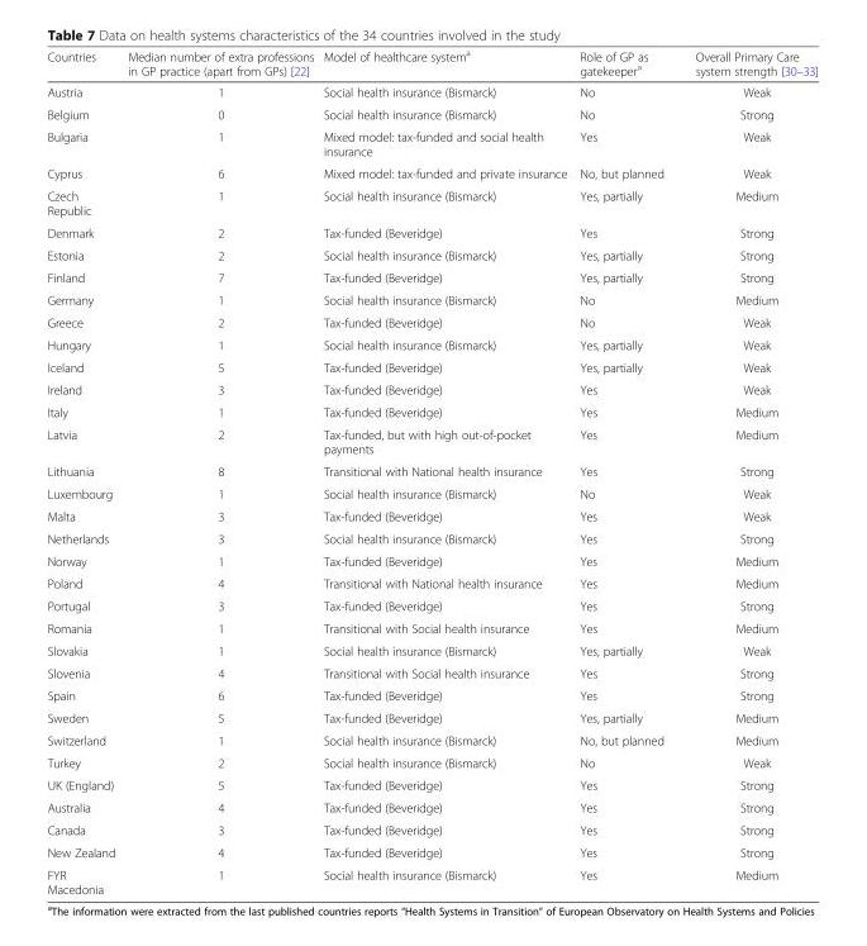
<table><thead><tr><td>Countries</td><td>Median number of extra professions in GP practice (apart from GPs) [22]</td><td>Model of healthcare system<sup>a</sup></td><td>Role of GP as gatekeeper<sup>a</sup></td><td>Overall Primary Care system strength [30–33]</td></tr></thead><tbody><tr><td>Austria</td><td>1</td><td>Social health insurance (Bismarck)</td><td>No</td><td>Weak</td></tr><tr><td>Belgium</td><td>0</td><td>Social health insurance (Bismarck)</td><td>No</td><td>Strong</td></tr><tr><td>Bulgaria</td><td>1</td><td>Mixed model: tax-funded and social health insurance</td><td>Yes</td><td>Weak</td></tr><tr><td>Cyprus</td><td>6</td><td>Mixed model: tax-funded and private insurance</td><td>No, but planned</td><td>Weak</td></tr><tr><td>Czech Republic</td><td>1</td><td>Social health insurance (Bismarck)</td><td>Yes, partially</td><td>Medium</td></tr><tr><td>Denmark</td><td>2</td><td>Tax-funded (Beveridge)</td><td>Yes</td><td>Strong</td></tr><tr><td>Estonia</td><td>2</td><td>Social health insurance (Bismarck)</td><td>Yes, partially</td><td>Strong</td></tr><tr><td>Finland</td><td>7</td><td>Tax-funded (Beveridge)</td><td>Yes, partially</td><td>Strong</td></tr><tr><td>Germany</td><td>1</td><td>Social health insurance (Bismarck)</td><td>No</td><td>Medium</td></tr><tr><td>Greece</td><td>2</td><td>Tax-funded (Beveridge)</td><td>No</td><td>Weak</td></tr><tr><td>Hungary</td><td>1</td><td>Social health insurance (Bismarck)</td><td>Yes, partially</td><td>Weak</td></tr><tr><td>Iceland</td><td>5</td><td>Tax-funded (Beveridge)</td><td>Yes, partially</td><td>Weak</td></tr><tr><td>Ireland</td><td>3</td><td>Tax-funded (Beveridge)</td><td>Yes</td><td>Weak</td></tr><tr><td>Italy</td><td>1</td><td>Tax-funded (Beveridge)</td><td>Yes</td><td>Medium</td></tr><tr><td>Latvia</td><td>2</td><td>Tax-funded, but with high out-of-pocket payments</td><td>Yes</td><td>Medium</td></tr><tr><td>Lithuania</td><td>8</td><td>Transitional with National health insurance</td><td>Yes</td><td>Strong</td></tr><tr><td>Luxembourg</td><td>1</td><td>Social health insurance (Bismarck)</td><td>No</td><td>Weak</td></tr><tr><td>Malta</td><td>3</td><td>Tax-funded (Beveridge)</td><td>Yes</td><td>Weak</td></tr><tr><td>Netherlands</td><td>3</td><td>Social health insurance (Bismarck)</td><td>Yes</td><td>Strong</td></tr><tr><td>Norway</td><td>1</td><td>Tax-funded (Beveridge)</td><td>Yes</td><td>Medium</td></tr><tr><td>Poland</td><td>4</td><td>Transitional with National health insurance</td><td>Yes</td><td>Medium</td></tr><tr><td>Portugal</td><td>3</td><td>Tax-funded (Beveridge)</td><td>Yes</td><td>Strong</td></tr><tr><td>Romania</td><td>1</td><td>Transitional with Social health insurance</td><td>Yes</td><td>Medium</td></tr><tr><td>Slovakia</td><td>1</td><td>Social health insurance (Bismarck)</td><td>Yes, partially</td><td>Weak</td></tr><tr><td>Slovenia</td><td>4</td><td>Transitional with Social health insurance</td><td>Yes</td><td>Strong</td></tr><tr><td>Spain</td><td>6</td><td>Tax-funded (Beveridge)</td><td>Yes</td><td>Strong</td></tr><tr><td>Sweden</td><td>5</td><td>Tax-funded (Beveridge)</td><td>Yes, partially</td><td>Medium</td></tr><tr><td>Switzerland</td><td>1</td><td>Social health insurance (Bismarck)</td><td>No, but planned</td><td>Medium</td></tr><tr><td>Turkey</td><td>2</td><td>Social health insurance (Bismarck)</td><td>No</td><td>Weak</td></tr><tr><td>UK (England)</td><td>5</td><td>Tax-funded (Beveridge)</td><td>Yes</td><td>Strong</td></tr><tr><td>Australia</td><td>4</td><td>Tax-funded (Beveridge)</td><td>Yes</td><td>Strong</td></tr><tr><td>Canada</td><td>3</td><td>Tax-funded (Beveridge)</td><td>Yes</td><td>Strong</td></tr><tr><td>New Zealand</td><td>4</td><td>Tax-funded (Beveridge)</td><td>Yes</td><td>Strong</td></tr><tr><td>FYR Macedonia</td><td>1</td><td>Social health insurance (Bismarck)</td><td>Yes</td><td>Medium</td></tr></tbody></table>